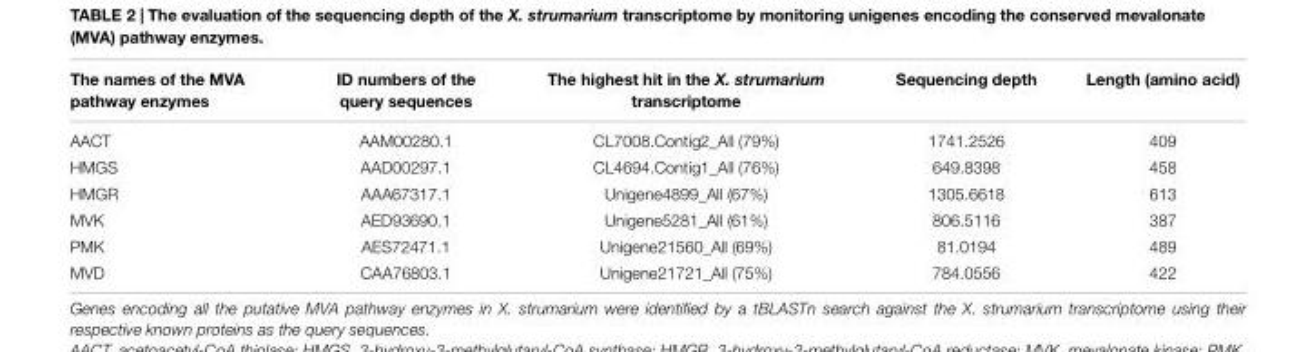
<table><thead><tr><td>The names of the MVA pathway enzymes</td><td>ID numbers of the query sequences</td><td>The highest hit in the X. strumarium transcriptome</td><td>Sequencing depth</td><td>Length (amino acid)</td></tr></thead><tbody><tr><td>AACT</td><td>AAM00280.1</td><td>CL7008.Contig2_All (79%)</td><td>1741.2526</td><td>409</td></tr><tr><td>HMGS</td><td>AAD00297.1</td><td>CL4694.Contig1_All (76%)</td><td>649.8398</td><td>458</td></tr><tr><td>HMGR</td><td>AAA67317.1</td><td>Unigene4899_All (67%)</td><td>1305.6618</td><td>613</td></tr><tr><td>MVK</td><td>AED93690.1</td><td>Unigene5281_All (61%)</td><td>806.5116</td><td>387</td></tr><tr><td>PMK</td><td>AES72471.1</td><td>Unigene21560_All (69%)</td><td>81.0194</td><td>489</td></tr><tr><td>MVD</td><td>CAA76803.1</td><td>Unigene21721_All (75%)</td><td>784.0556</td><td>422</td></tr></tbody></table>